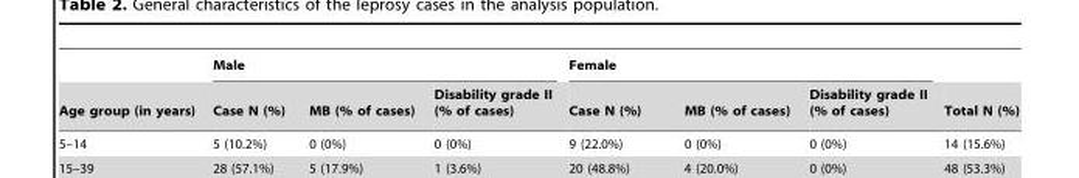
<table><thead><tr><td rowspan="2">Age group (in years)</td><td colspan="3">Male</td><td colspan="3">Female</td><td rowspan="2">Total N (%)</td></tr><tr><td>Case N (%)</td><td>MB (% of cases)</td><td>Disability grade II (% of cases)</td><td>Case N (%)</td><td>MB (% of cases)</td><td>Disability grade II (% of cases)</td></tr></thead><tbody></tbody></table>